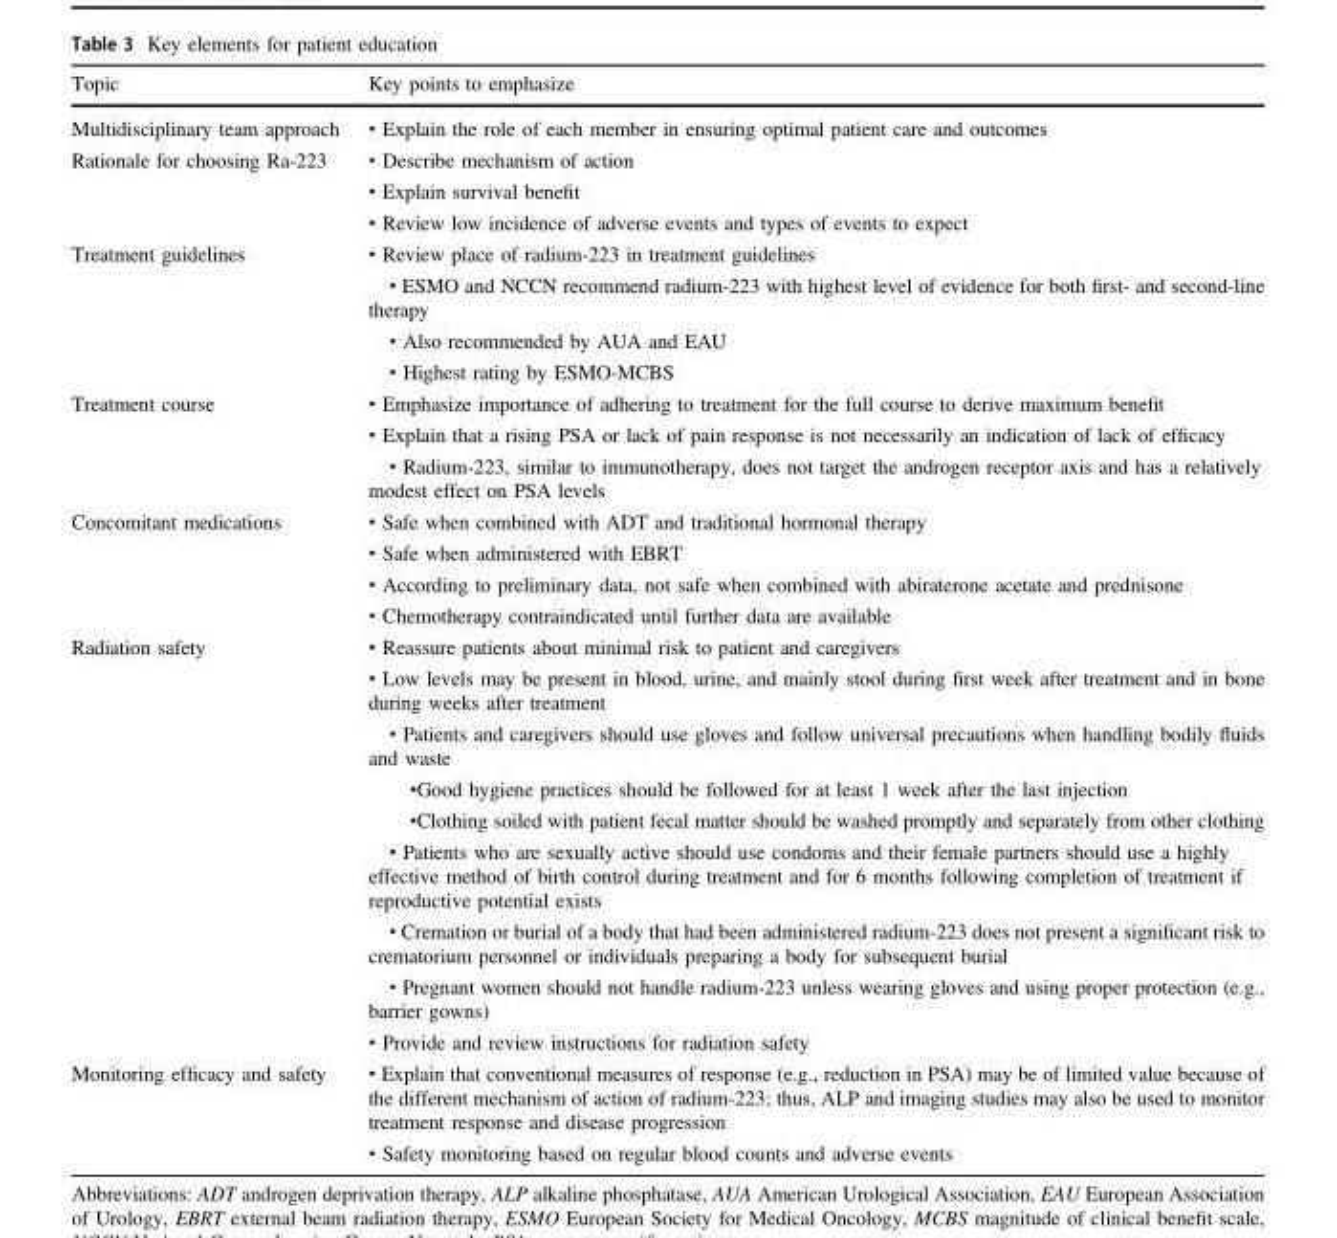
<table><thead><tr><td>Topic</td><td>Key points to emphasize</td></tr></thead><tbody><tr><td>Multidisciplinary team approach</td><td>• Explain the role of each member in ensuring optimal patient care and outcomes</td></tr><tr><td rowspan="3">Rationale for choosing Ra-223</td><td>• Describe mechanism of action</td></tr><tr><td>• Explain survival benefit</td></tr><tr><td>• Review low incidence of adverse events and types of events to expect</td></tr><tr><td rowspan="4">Treatment guidelines</td><td>• Review place of radium-223 in treatment guidelines</td></tr><tr><td>• ESMO and NCCN recommend radium-223 with highest level of evidence for both first- and second-line therapy</td></tr><tr><td>• Also recommended by AUA and EAU</td></tr><tr><td>• Highest rating by ESMO-MCBS</td></tr><tr><td rowspan="3">Treatment course</td><td>• Emphasize importance of adhering to treatment for the full course to derive maximum benefit</td></tr><tr><td>• Explain that a rising PSA or lack of pain response is not necessarily an indication of lack of efficacy</td></tr><tr><td>• Radium-223, similar to immunotherapy, does not target the androgen receptor axis and has a relatively modest effect on PSA levels</td></tr><tr><td rowspan="4">Concomitant medications</td><td>• Safe when combined with ADT and traditional hormonal therapy</td></tr><tr><td>• Safe when administered with EBRT</td></tr><tr><td>• According to preliminary data, not safe when combined with abiraterone acetate and prednisone</td></tr><tr><td>• Chemotherapy contraindicated until further data are available</td></tr><tr><td rowspan="9">Radiation safety</td><td>• Reassure patients about minimal risk to patient and caregivers</td></tr><tr><td>• Low levels may be present in blood, urine, and mainly stool during first week after treatment and in bone during weeks after treatment</td></tr><tr><td>• Patients and caregivers should use gloves and follow universal precautions when handling bodily fluids and waste</td></tr><tr><td>•Good hygiene practices should be followed for at least 1 week after the last injection</td></tr><tr><td>•Clothing soiled with patient fecal matter should be washed promptly and separately from other clothing</td></tr><tr><td>• Patients who are sexually active should use condoms and their female partners should use a highly effective method of birth control during treatment and for 6 months following completion of treatment if reproductive potential exists</td></tr><tr><td>• Cremation or burial of a body that had been administered radium-223 does not present a significant risk to crematorium personnel or individuals preparing a body for subsequent burial</td></tr><tr><td>• Pregnant women should not handle radium-223 unless wearing gloves and using proper protection (e.g., barrier gowns)</td></tr><tr><td>• Provide and review instructions for radiation safety</td></tr><tr><td rowspan="2">Monitoring efficacy and safety</td><td>• Explain that conventional measures of response (e.g., reduction in PSA) may be of limited value because of the different mechanism of action of radium-223; thus, ALP and imaging studies may also be used to monitor treatment response and disease progression</td></tr><tr><td>• Safety monitoring based on regular blood counts and adverse events</td></tr></tbody></table>